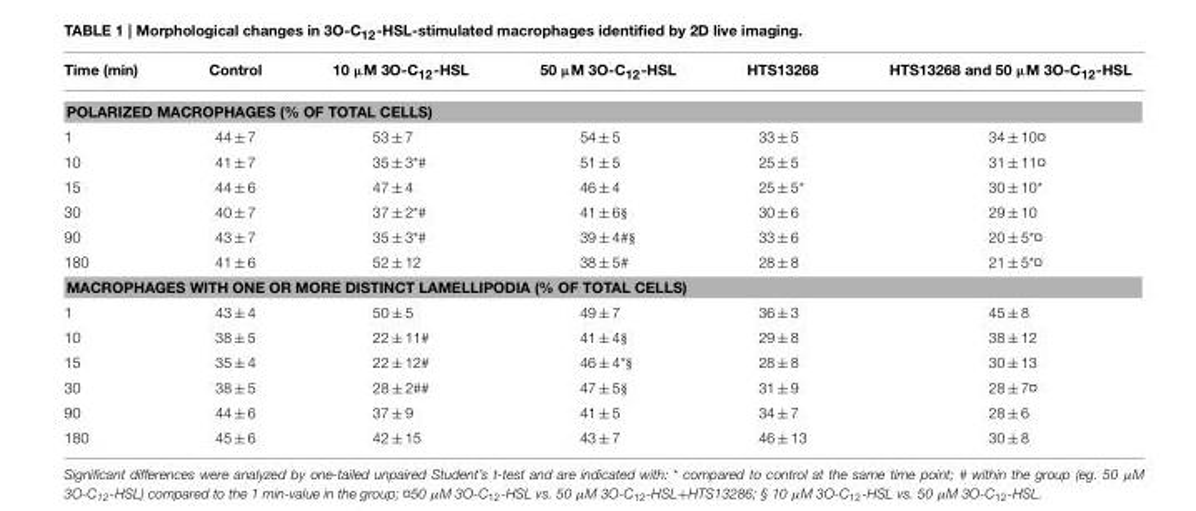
<table><thead><tr><td>Time (min)</td><td>Control</td><td>10 µM 3O-C<sub>12</sub>-HSL</td><td>50 µM 3O-C<sub>12</sub>-HSL</td><td>HTS13268</td><td>HTS13268 and 50 µM 3O-C<sub>12</sub>-HSL</td></tr></thead><tbody><tr><td colspan="6">POLARIZED MACROPHAGES (% OF TOTAL CELLS)</td></tr><tr><td>1</td><td>44 ± 7</td><td>53 ± 7</td><td>54 ± 5</td><td>33 ± 5</td><td>34 ± 10<sup>¤</sup></td></tr><tr><td>10</td><td>41 ± 7</td><td>35 ± 3<sup>*#</sup></td><td>51 ± 5</td><td>25 ± 5</td><td>31 ± 11<sup>¤</sup></td></tr><tr><td>15</td><td>44 ± 6</td><td>47 ± 4</td><td>46 ± 4</td><td>25 ± 5*</td><td>30 ± 10*</td></tr><tr><td>30</td><td>40 ± 7</td><td>37 ± 2<sup>*#</sup></td><td>41 ± 6<sup>§</sup></td><td>30 ± 6</td><td>29 ± 10</td></tr><tr><td>90</td><td>43 ± 7</td><td>35 ± 3<sup>*#</sup></td><td>39 ± 4<sup>#§</sup></td><td>33 ± 6</td><td>20 ± 5<sup>*¤</sup></td></tr><tr><td>180</td><td>41 ± 6</td><td>52 ± 12</td><td>38 ± 5<sup>#</sup></td><td>28 ± 8</td><td>21 ± 5<sup>*¤</sup></td></tr><tr><td colspan="6">MACROPHAGES WITH ONE OR MORE DISTINCT LAMELLIPODIA (% OF TOTAL CELLS)</td></tr><tr><td>1</td><td>43 ± 4</td><td>50 ± 5</td><td>49 ± 7</td><td>36 ± 3</td><td>45 ± 8</td></tr><tr><td>10</td><td>38 ± 5</td><td>22 ± 11<sup>#</sup></td><td>41 ± 4<sup>§</sup></td><td>29 ± 8</td><td>38 ± 12</td></tr><tr><td>15</td><td>35 ± 4</td><td>22 ± 12<sup>#</sup></td><td>46 ± 4<sup>*§</sup></td><td>28 ± 8</td><td>30 ± 13</td></tr><tr><td>30</td><td>38 ± 5</td><td>28 ± 2<sup>##</sup></td><td>47 ± 5<sup>§</sup></td><td>31 ± 9</td><td>28 ± 7<sup>¤</sup></td></tr><tr><td>90</td><td>44 ± 6</td><td>37 ± 9</td><td>41 ± 5</td><td>34 ± 7</td><td>28 ± 6</td></tr><tr><td>180</td><td>45 ± 6</td><td>42 ± 15</td><td>43 ± 7</td><td>46 ± 13</td><td>30 ± 8</td></tr></tbody></table>